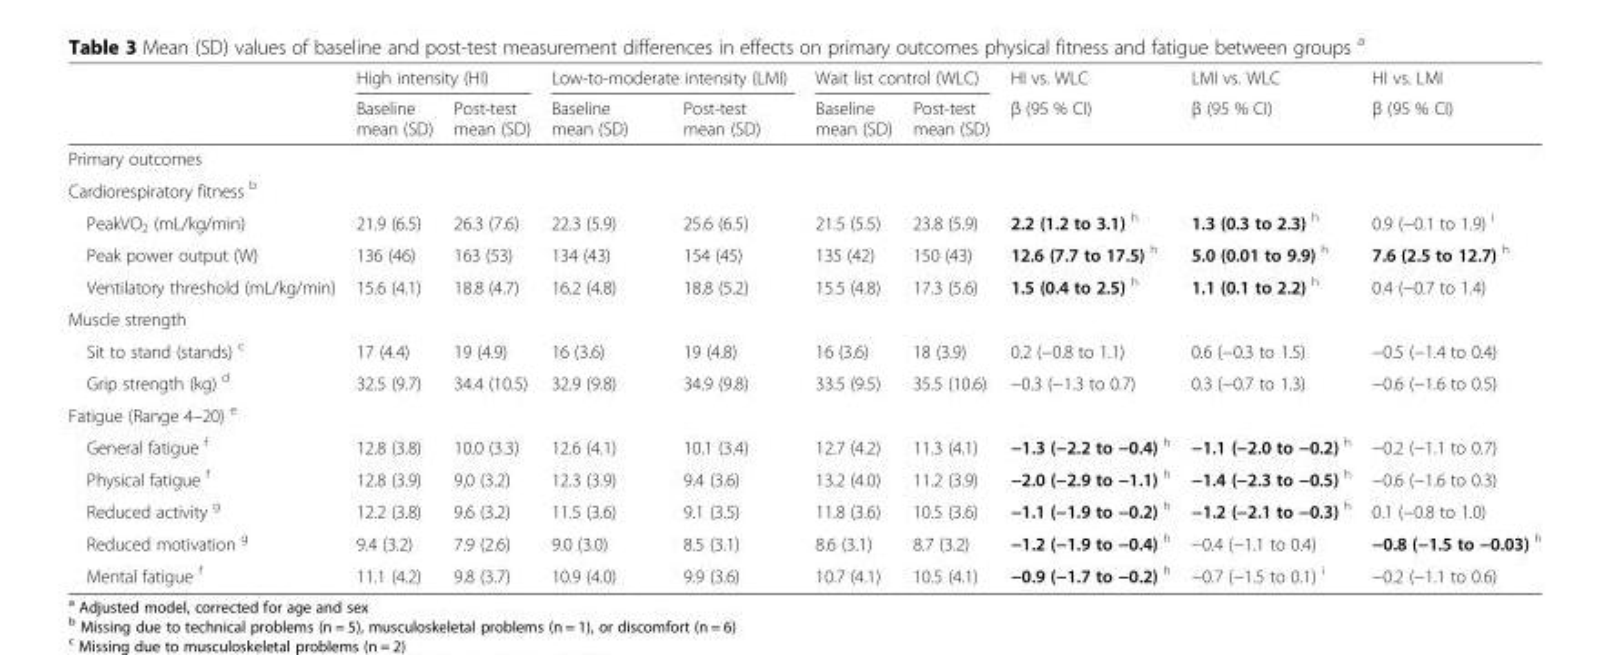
<table><thead><tr><td rowspan="2"></td><td colspan="2">High intensity (HI)</td><td colspan="2">Low-to-moderate intensity (LMI)</td><td colspan="2">Wait list control (WLC)</td><td rowspan="2">HI vs. WLC β (95 % CI)</td><td rowspan="2">LMI vs. WLC β (95 % CI)</td><td rowspan="2">HI vs. LMI β (95 % CI)</td></tr><tr><td>Baseline mean (SD)</td><td>Post-test mean (SD)</td><td>Baseline mean (SD)</td><td>Post-test mean (SD)</td><td>Baseline mean (SD)</td><td>Post-test mean (SD)</td></tr></thead><tbody><tr><td colspan="10">Primary outcomes</td></tr><tr><td colspan="10">Cardiorespiratory fitness <sup>b</sup></td></tr><tr><td>PeakVO<sub>2</sub> (mL/kg/min)</td><td>21.9 (6.5)</td><td>26.3 (7.6)</td><td>22.3 (5.9)</td><td>25.6 (6.5)</td><td>21.5 (5.5)</td><td>23.8 (5.9)</td><td>2.2 (1.2 to 3.1) <sup>h</sup></td><td>1.3 (0.3 to 2.3) <sup>h</sup></td><td>0.9 (−0.1 to 1.9) <sup>i</sup></td></tr><tr><td>Peak power output (W)</td><td>136 (46)</td><td>163 (53)</td><td>134 (43)</td><td>154 (45)</td><td>135 (42)</td><td>150 (43)</td><td>12.6 (7.7 to 17.5) <sup>h</sup></td><td>5.0 (0.01 to 9.9) <sup>h</sup></td><td>7.6 (2.5 to 12.7) <sup>h</sup></td></tr><tr><td>Ventilatory threshold (mL/kg/min)</td><td>15.6 (4.1)</td><td>18.8 (4.7)</td><td>16.2 (4.8)</td><td>18.8 (5.2)</td><td>15.5 (4.8)</td><td>17.3 (5.6)</td><td>1.5 (0.4 to 2.5) <sup>h</sup></td><td>1.1 (0.1 to 2.2) <sup>h</sup></td><td>0.4 (−0.7 to 1.4)</td></tr><tr><td colspan="10">Muscle strength</td></tr><tr><td>Sit to stand (stands) <sup>c</sup></td><td>17 (4.4)</td><td>19 (4.9)</td><td>16 (3.6)</td><td>19 (4.8)</td><td>16 (3.6)</td><td>18 (3.9)</td><td>0.2 (−0.8 to 1.1)</td><td>0.6 (−0.3 to 1.5)</td><td>−0.5 (−1.4 to 0.4)</td></tr><tr><td>Grip strength (kg) <sup>d</sup></td><td>32.5 (9.7)</td><td>34.4 (10.5)</td><td>32.9 (9.8)</td><td>34.9 (9.8)</td><td>33.5 (9.5)</td><td>35.5 (10.6)</td><td>−0.3 (−1.3 to 0.7)</td><td>0.3 (−0.7 to 1.3)</td><td>−0.6 (−1.6 to 0.5)</td></tr><tr><td colspan="10">Fatigue (Range 4–20) <sup>e</sup></td></tr><tr><td>General fatigue <sup>f</sup></td><td>12.8 (3.8)</td><td>10.0 (3.3)</td><td>12.6 (4.1)</td><td>10.1 (3.4)</td><td>12.7 (4.2)</td><td>11.3 (4.1)</td><td>−1.3 (−2.2 to −0.4) <sup>h</sup></td><td>−1.1 (−2.0 to −0.2) <sup>h</sup></td><td>−0.2 (−1.1 to 0.7)</td></tr><tr><td>Physical fatigue <sup>f</sup></td><td>12.8 (3.9)</td><td>9,0 (3.2)</td><td>12.3 (3.9)</td><td>9.4 (3.6)</td><td>13.2 (4.0)</td><td>11.2 (3.9)</td><td>−2.0 (−2.9 to −1.1) <sup>h</sup></td><td>−1.4 (−2.3 to −0.5) <sup>h</sup></td><td>−0.6 (−1.6 to 0.3)</td></tr><tr><td>Reduced activity <sup>g</sup></td><td>12.2 (3.8)</td><td>9.6 (3.2)</td><td>11.5 (3.6)</td><td>9.1 (3.5)</td><td>11.8 (3.6)</td><td>10.5 (3.6)</td><td>−1.1 (−1.9 to −0.2) <sup>h</sup></td><td>−1.2 (−2.1 to −0.3) <sup>h</sup></td><td>0.1 (−0.8 to 1.0)</td></tr><tr><td>Reduced motivation <sup>g</sup></td><td>9.4 (3.2)</td><td>7.9 (2.6)</td><td>9.0 (3.0)</td><td>8.5 (3.1)</td><td>8.6 (3.1)</td><td>8.7 (3.2)</td><td>−1.2 (−1.9 to −0.4) <sup>h</sup></td><td>−0.4 (−1.1 to 0.4)</td><td>−0.8 (−1.5 to −0.03) <sup>h</sup></td></tr><tr><td>Mental fatigue <sup>f</sup></td><td>11.1 (4.2)</td><td>9.8 (3.7)</td><td>10.9 (4.0)</td><td>9.9 (3.6)</td><td>10.7 (4.1)</td><td>10.5 (4.1)</td><td>−0.9 (−1.7 to −0.2) <sup>h</sup></td><td>−0.7 (−1.5 to 0.1) <sup>i</sup></td><td>−0.2 (−1.1 to 0.6)</td></tr></tbody></table>